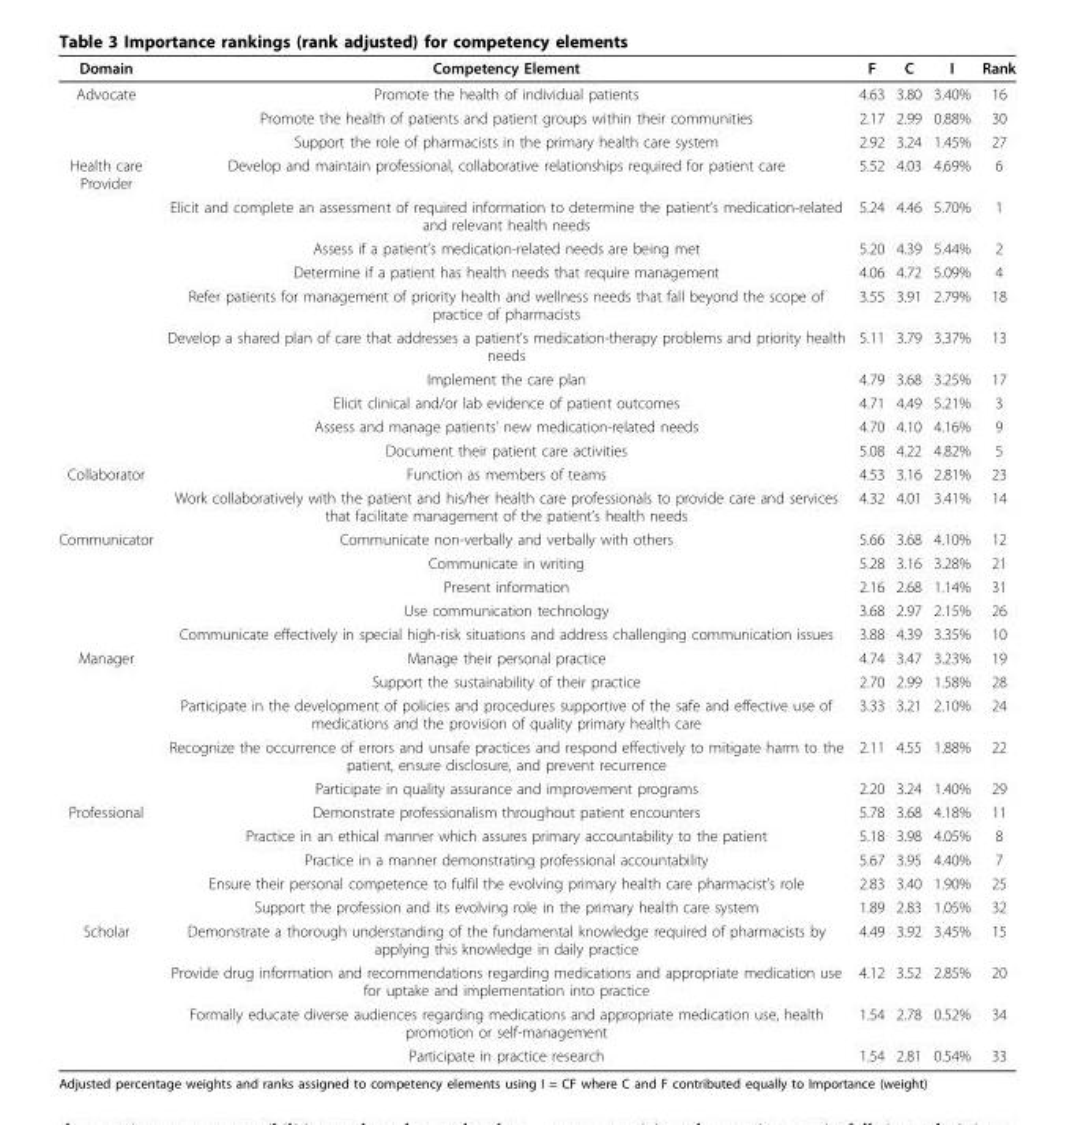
<table><thead><tr><td>Domain</td><td>Competency Element</td><td>F</td><td>C</td><td>I</td><td>Rank</td></tr></thead><tbody><tr><td rowspan="3">Advocate</td><td>Promote the health of individual patients</td><td>4.63</td><td>3.80</td><td>3.40%</td><td>16</td></tr><tr><td>Promote the health of patients and patient groups within their communities</td><td>2.17</td><td>2.99</td><td>0.88%</td><td>30</td></tr><tr><td>Support the role of pharmacists in the primary health care system</td><td>2.92</td><td>3.24</td><td>1.45%</td><td>27</td></tr><tr><td rowspan="10">Health care Provider</td><td>Develop and maintain professional, collaborative relationships required for patient care</td><td>5.52</td><td>4.03</td><td>4.69%</td><td>6</td></tr><tr><td>Elicit and complete an assessment of required information to determine the patient’s medication-related and relevant health needs</td><td>5.24</td><td>4.46</td><td>5.70%</td><td>1</td></tr><tr><td>Assess if a patient’s medication-related needs are being met</td><td>5.20</td><td>4.39</td><td>5.44%</td><td>2</td></tr><tr><td>Determine if a patient has health needs that require management</td><td>4.06</td><td>4.72</td><td>5.09%</td><td>4</td></tr><tr><td>Refer patients for management of priority health and wellness needs that fall beyond the scope of practice of pharmacists</td><td>3.55</td><td>3.91</td><td>2.79%</td><td>18</td></tr><tr><td>Develop a shared plan of care that addresses a patient’s medication-therapy problems and priority health needs</td><td>5.11</td><td>3.79</td><td>3.37%</td><td>13</td></tr><tr><td>Implement the care plan</td><td>4.79</td><td>3.68</td><td>3.25%</td><td>17</td></tr><tr><td>Elicit clinical and/or lab evidence of patient outcomes</td><td>4.71</td><td>4.49</td><td>5.21%</td><td>3</td></tr><tr><td>Assess and manage patients’ new medication-related needs</td><td>4.70</td><td>4.10</td><td>4.16%</td><td>9</td></tr><tr><td>Document their patient care activities</td><td>5.08</td><td>4.22</td><td>4.82%</td><td>5</td></tr><tr><td rowspan="2">Collaborator</td><td>Function as members of teams</td><td>4.53</td><td>3.16</td><td>2.81%</td><td>23</td></tr><tr><td>Work collaboratively with the patient and his/her health care professionals to provide care and services that facilitate management of the patient’s health needs</td><td>4.32</td><td>4.01</td><td>3.41%</td><td>14</td></tr><tr><td rowspan="5">Communicator</td><td>Communicate non-verbally and verbally with others</td><td>5.66</td><td>3.68</td><td>4.10%</td><td>12</td></tr><tr><td>Communicate in writing</td><td>5.28</td><td>3.16</td><td>3.28%</td><td>21</td></tr><tr><td>Present information</td><td>2.16</td><td>2.68</td><td>1.14%</td><td>31</td></tr><tr><td>Use communication technology</td><td>3.68</td><td>2.97</td><td>2.15%</td><td>26</td></tr><tr><td>Communicate effectively in special high-risk situations and address challenging communication issues</td><td>3.88</td><td>4.39</td><td>3.35%</td><td>10</td></tr><tr><td rowspan="5">Manager</td><td>Manage their personal practice</td><td>4.74</td><td>3.47</td><td>3.23%</td><td>19</td></tr><tr><td>Support the sustainability of their practice</td><td>2.70</td><td>2.99</td><td>1.58%</td><td>28</td></tr><tr><td>Participate in the development of policies and procedures supportive of the safe and effective use of medications and the provision of quality primary health care</td><td>3.33</td><td>3.21</td><td>2.10%</td><td>24</td></tr><tr><td>Recognize the occurrence of errors and unsafe practices and respond effectively to mitigate harm to the patient, ensure disclosure, and prevent recurrence</td><td>2.11</td><td>4.55</td><td>1.88%</td><td>22</td></tr><tr><td>Participate in quality assurance and improvement programs</td><td>2.20</td><td>3.24</td><td>1.40%</td><td>29</td></tr><tr><td rowspan="5">Professional</td><td>Demonstrate professionalism throughout patient encounters</td><td>5.78</td><td>3.68</td><td>4.18%</td><td>11</td></tr><tr><td>Practice in an ethical manner which assures primary accountability to the patient</td><td>5.18</td><td>3.98</td><td>4.05%</td><td>8</td></tr><tr><td>Practice in a manner demonstrating professional accountability</td><td>5.67</td><td>3.95</td><td>4.40%</td><td>7</td></tr><tr><td>Ensure their personal competence to fulfil the evolving primary health care pharmacist’s role</td><td>2.83</td><td>3.40</td><td>1.90%</td><td>25</td></tr><tr><td>Support the profession and its evolving role in the primary health care system</td><td>1.89</td><td>2.83</td><td>1.05%</td><td>32</td></tr><tr><td rowspan="4">Scholar</td><td>Demonstrate a thorough understanding of the fundamental knowledge required of pharmacists by applying this knowledge in daily practice</td><td>4.49</td><td>3.92</td><td>3.45%</td><td>15</td></tr><tr><td>Provide drug information and recommendations regarding medications and appropriate medication use for uptake and implementation into practice</td><td>4.12</td><td>3.52</td><td>2.85%</td><td>20</td></tr><tr><td>Formally educate diverse audiences regarding medications and appropriate medication use, health promotion or self-management</td><td>1.54</td><td>2.78</td><td>0.52%</td><td>34</td></tr><tr><td>Participate in practice research</td><td>1.54</td><td>2.81</td><td>0.54%</td><td>33</td></tr></tbody></table>